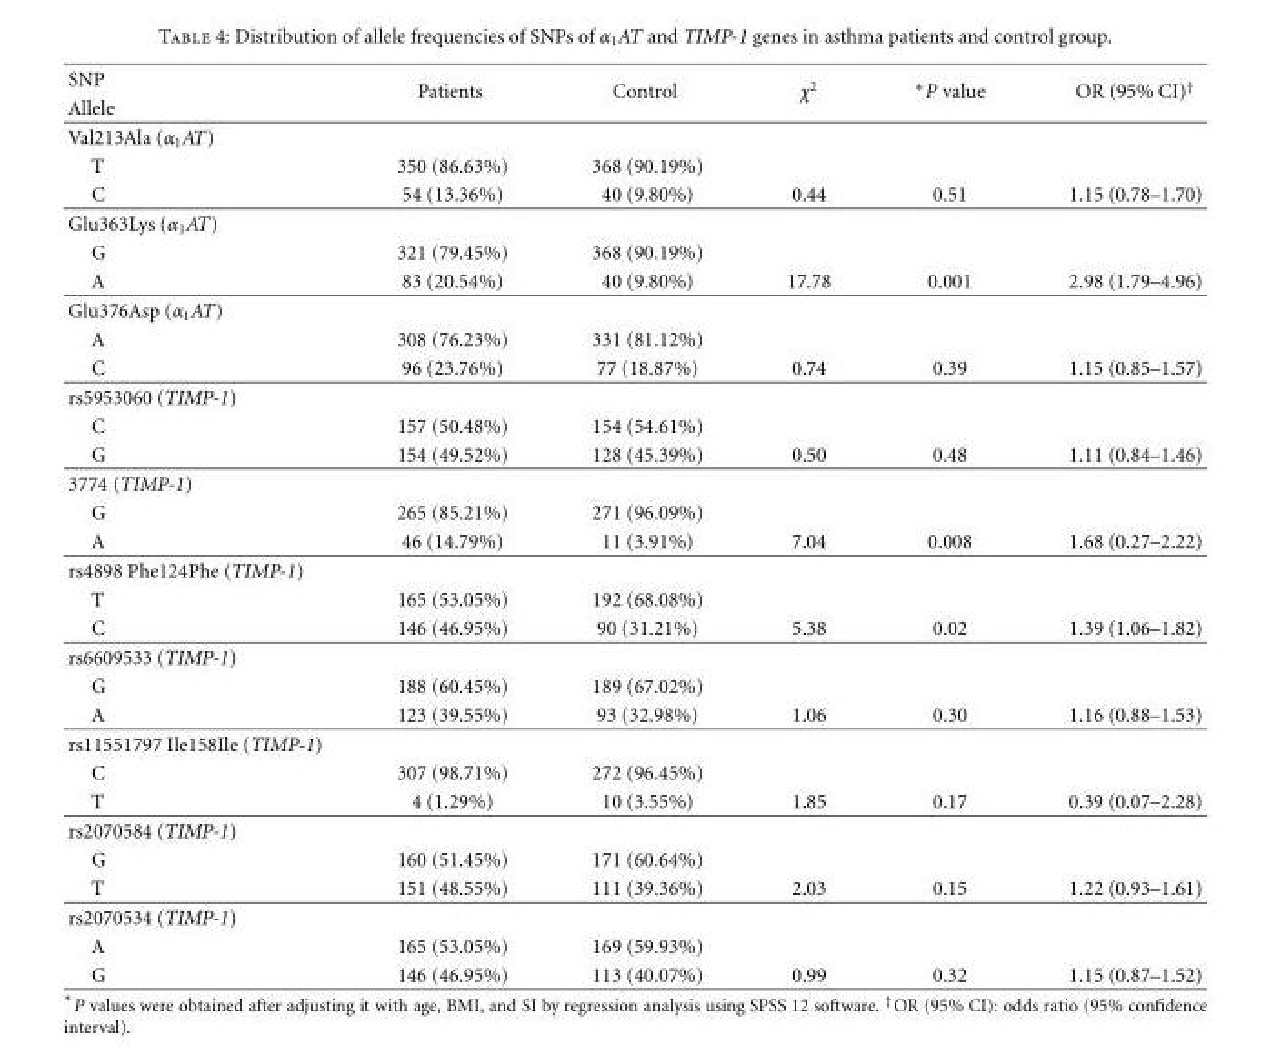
<table><thead><tr><td rowspan="2">SNP Allele</td><td rowspan="2">Patients</td><td rowspan="2">Control</td><td rowspan="2">χ<sup>2</sup></td><td rowspan="2">∗P value</td><td rowspan="2">OR (95% CI)<sup>†</sup></td></tr><tr></tr></thead><tbody><tr><td colspan="6">Val213Ala (α<sub>1</sub>AT)</td></tr><tr><td>T</td><td>350 (86.63%)</td><td>368 (90.19%)</td><td></td><td></td><td></td></tr><tr><td>C</td><td>54 (13.36%)</td><td>40 (9.80%)</td><td>0.44</td><td>0.51</td><td>1.15 (0.78–1.70)</td></tr><tr><td colspan="6">Glu363Lys (α<sub>1</sub>AT)</td></tr><tr><td>G</td><td>321 (79.45%)</td><td>368 (90.19%)</td><td></td><td></td><td></td></tr><tr><td>A</td><td>83 (20.54%)</td><td>40 (9.80%)</td><td>17.78</td><td>0.001</td><td>2.98 (1.79–4.96)</td></tr><tr><td colspan="6">Glu376Asp (α<sub>1</sub>AT)</td></tr><tr><td>A</td><td>308 (76.23%)</td><td>331 (81.12%)</td><td></td><td></td><td></td></tr><tr><td>C</td><td>96 (23.76%)</td><td>77 (18.87%)</td><td>0.74</td><td>0.39</td><td>1.15 (0.85–1.57)</td></tr><tr><td colspan="6">rs5953060 (TIMP-1)</td></tr><tr><td>C</td><td>157 (50.48%)</td><td>154 (54.61%)</td><td></td><td></td><td></td></tr><tr><td>G</td><td>154 (49.52%)</td><td>128 (45.39%)</td><td>0.50</td><td>0.48</td><td>1.11 (0.84–1.46)</td></tr><tr><td colspan="6">3774 (TIMP-1)</td></tr><tr><td>G</td><td>265 (85.21%)</td><td>271 (96.09%)</td><td></td><td></td><td></td></tr><tr><td>A</td><td>46 (14.79%)</td><td>11 (3.91%)</td><td>7.04</td><td>0.008</td><td>1.68 (0.27–2.22)</td></tr><tr><td colspan="6">rs4898 Phe124Phe (TIMP-1)</td></tr><tr><td>T</td><td>165 (53.05%)</td><td>192 (68.08%)</td><td></td><td></td><td></td></tr><tr><td>C</td><td>146 (46.95%)</td><td>90 (31.21%)</td><td>5.38</td><td>0.02</td><td>1.39 (1.06–1.82)</td></tr><tr><td colspan="6">rs6609533 (TIMP-1)</td></tr><tr><td>G</td><td>188 (60.45%)</td><td>189 (67.02%)</td><td></td><td></td><td></td></tr><tr><td>A</td><td>123 (39.55%)</td><td>93 (32.98%)</td><td>1.06</td><td>0.30</td><td>1.16 (0.88–1.53)</td></tr><tr><td colspan="6">rs11551797 Ile158Ile (TIMP-1)</td></tr><tr><td>C</td><td>307 (98.71%)</td><td>272 (96.45%)</td><td></td><td></td><td></td></tr><tr><td>T</td><td>4 (1.29%)</td><td>10 (3.55%)</td><td>1.85</td><td>0.17</td><td>0.39 (0.07–2.28)</td></tr><tr><td colspan="6">rs2070584 (TIMP-1)</td></tr><tr><td>G</td><td>160 (51.45%)</td><td>171 (60.64%)</td><td></td><td></td><td></td></tr><tr><td>T</td><td>151 (48.55%)</td><td>111 (39.36%)</td><td>2.03</td><td>0.15</td><td>1.22 (0.93–1.61)</td></tr><tr><td colspan="6">rs2070534 (TIMP-1)</td></tr><tr><td>A</td><td>165 (53.05%)</td><td>169 (59.93%)</td><td></td><td></td><td></td></tr><tr><td>G</td><td>146 (46.95%)</td><td>113 (40.07%)</td><td>0.99</td><td>0.32</td><td>1.15 (0.87–1.52)</td></tr></tbody></table>